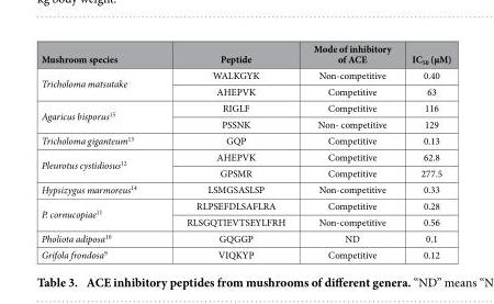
<table><thead><tr><td>Mushroom species</td><td>Peptide</td><td>Mode of inhibitory of ACE</td><td>IC<sub>50</sub> (μM)</td></tr></thead><tbody><tr><td rowspan="2">Tricholoma matsutake</td><td>WALKGYK</td><td>Non-competitive</td><td>0.40</td></tr><tr><td>AHEPVK</td><td>Competitive</td><td>63</td></tr><tr><td rowspan="2">Agaricus bisporus<sup>15</sup></td><td>RIGLF</td><td>Competitive</td><td>116</td></tr><tr><td>PSSNK</td><td>Non- competitive</td><td>129</td></tr><tr><td>Tricholoma giganteum<sup>13</sup></td><td>GQP</td><td>Competitive</td><td>0.13</td></tr><tr><td rowspan="2">Pleurotus cystidiosus<sup>12</sup></td><td>AHEPVK</td><td>Competitive</td><td>62.8</td></tr><tr><td>GPSMR</td><td>Competitive</td><td>277.5</td></tr><tr><td>Hypsizygus marmoreus<sup>14</sup></td><td>LSMGSASLSP</td><td>Non-competitive</td><td>0.33</td></tr><tr><td rowspan="2">P. cornucopiae<sup>11</sup></td><td>RLPSEFDLSAFLRA</td><td>Competitive</td><td>0.28</td></tr><tr><td>RLSGQTIEVTSEYLFRH</td><td>Non-competitive</td><td>0.56</td></tr><tr><td>Pholiota adiposa<sup>10</sup></td><td>GQGGP</td><td>ND</td><td>0.1</td></tr><tr><td>Grifola frondosa<sup>9</sup></td><td>VIQKYP</td><td>Competitive</td><td>0.12</td></tr></tbody></table>